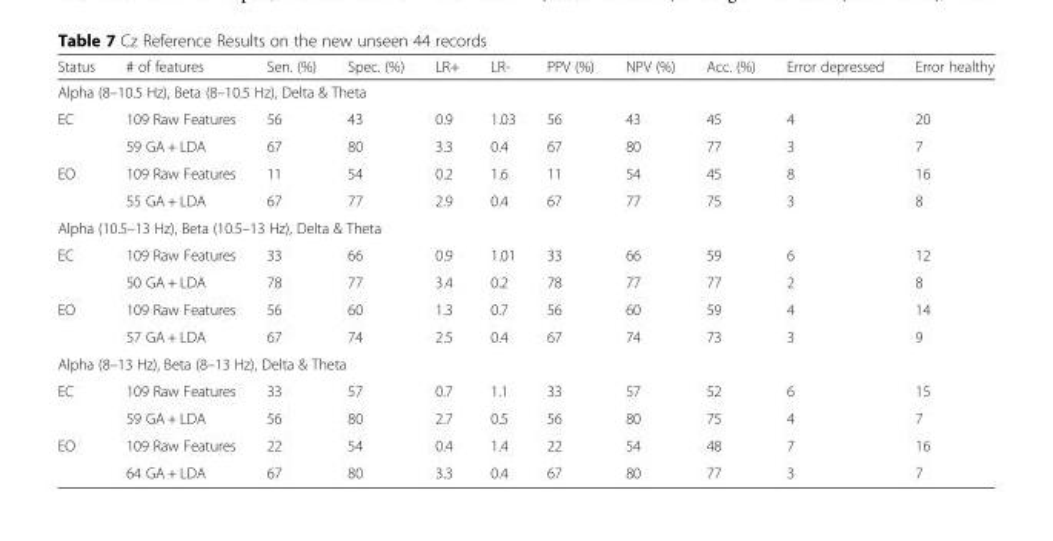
<table><thead><tr><td>Status</td><td># of features</td><td>Sen. (%)</td><td>Spec. (%)</td><td>LR+</td><td>LR-</td><td>PPV (%)</td><td>NPV (%)</td><td>Acc. (%)</td><td>Error depressed</td><td>Error healthy</td></tr></thead><tbody><tr><td colspan="11">Alpha (8–10.5 Hz), Beta (8–10.5 Hz), Delta &amp; Theta</td></tr><tr><td rowspan="2">EC</td><td>109 Raw Features</td><td>56</td><td>43</td><td>0.9</td><td>1.03</td><td>56</td><td>43</td><td>45</td><td>4</td><td>20</td></tr><tr><td>59 GA + LDA</td><td>67</td><td>80</td><td>3.3</td><td>0.4</td><td>67</td><td>80</td><td>77</td><td>3</td><td>7</td></tr><tr><td rowspan="2">EO</td><td>109 Raw Features</td><td>11</td><td>54</td><td>0.2</td><td>1.6</td><td>11</td><td>54</td><td>45</td><td>8</td><td>16</td></tr><tr><td>55 GA + LDA</td><td>67</td><td>77</td><td>2.9</td><td>0.4</td><td>67</td><td>77</td><td>75</td><td>3</td><td>8</td></tr><tr><td colspan="11">Alpha (10.5–13 Hz), Beta (10.5–13 Hz), Delta &amp; Theta</td></tr><tr><td rowspan="2">EC</td><td>109 Raw Features</td><td>33</td><td>66</td><td>0.9</td><td>1.01</td><td>33</td><td>66</td><td>59</td><td>6</td><td>12</td></tr><tr><td>50 GA + LDA</td><td>78</td><td>77</td><td>3.4</td><td>0.2</td><td>78</td><td>77</td><td>77</td><td>2</td><td>8</td></tr><tr><td rowspan="2">EO</td><td>109 Raw Features</td><td>56</td><td>60</td><td>1.3</td><td>0.7</td><td>56</td><td>60</td><td>59</td><td>4</td><td>14</td></tr><tr><td>57 GA + LDA</td><td>67</td><td>74</td><td>2.5</td><td>0.4</td><td>67</td><td>74</td><td>73</td><td>3</td><td>9</td></tr><tr><td colspan="11">Alpha (8–13 Hz), Beta (8–13 Hz), Delta &amp; Theta</td></tr><tr><td rowspan="2">EC</td><td>109 Raw Features</td><td>33</td><td>57</td><td>0.7</td><td>1.1</td><td>33</td><td>57</td><td>52</td><td>6</td><td>15</td></tr><tr><td>59 GA + LDA</td><td>56</td><td>80</td><td>2.7</td><td>0.5</td><td>56</td><td>80</td><td>75</td><td>4</td><td>7</td></tr><tr><td rowspan="2">EO</td><td>109 Raw Features</td><td>22</td><td>54</td><td>0.4</td><td>1.4</td><td>22</td><td>54</td><td>48</td><td>7</td><td>16</td></tr><tr><td>64 GA + LDA</td><td>67</td><td>80</td><td>3.3</td><td>0.4</td><td>67</td><td>80</td><td>77</td><td>3</td><td>7</td></tr></tbody></table>